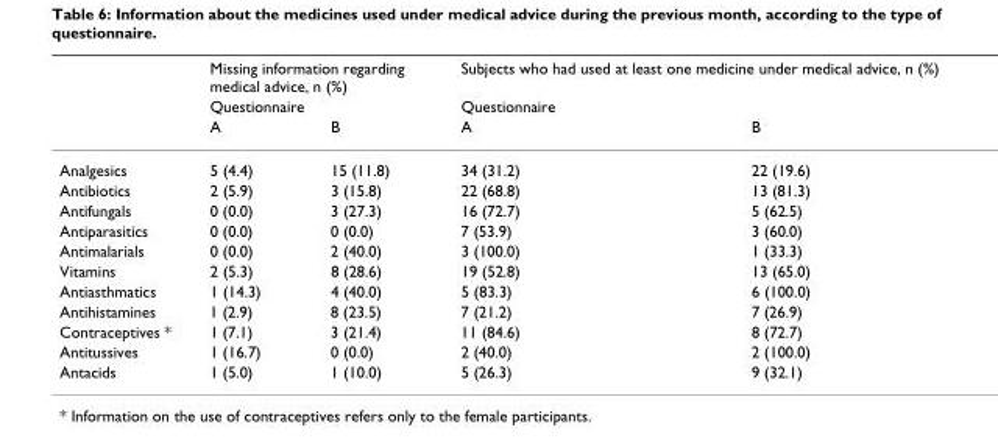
<table><thead><tr><td rowspan="3"></td><td rowspan="2" colspan="2">Missing information regarding medical advice, n (%) Questionnaire</td><td rowspan="2" colspan="2">Subjects who had used at least one medicine under medical advice, n (%) Questionnaire</td></tr><tr></tr><tr><td>A</td><td>B</td><td>A</td><td>B</td></tr></thead><tbody><tr><td>Analgesics</td><td>5 (4.4)</td><td>15 (11.8)</td><td>34 (31.2)</td><td>22 (19.6)</td></tr><tr><td>Antibiotics</td><td>2 (5.9)</td><td>3 (15.8)</td><td>22 (68.8)</td><td>13 (81.3)</td></tr><tr><td>Antifungals</td><td>0 (0.0)</td><td>3 (27.3)</td><td>16 (72.7)</td><td>5 (62.5)</td></tr><tr><td>Antiparasitics</td><td>0 (0.0)</td><td>0 (0.0)</td><td>7 (53.9)</td><td>3 (60.0)</td></tr><tr><td>Antimalarials</td><td>0 (0.0)</td><td>2 (40.0)</td><td>3 (100.0)</td><td>1 (33.3)</td></tr><tr><td>Vitamins</td><td>2 (5.3)</td><td>8 (28.6)</td><td>19 (52.8)</td><td>13 (65.0)</td></tr><tr><td>Antiasthmatics</td><td>1 (14.3)</td><td>4 (40.0)</td><td>5 (83.3)</td><td>6 (100.0)</td></tr><tr><td>Antihistamines</td><td>1 (2.9)</td><td>8 (23.5)</td><td>7 (21.2)</td><td>7 (26.9)</td></tr><tr><td>Contraceptives *</td><td>1 (7.1)</td><td>3 (21.4)</td><td>11 (84.6)</td><td>8 (72.7)</td></tr><tr><td>Antitussives</td><td>1 (16.7)</td><td>0 (0.0)</td><td>2 (40.0)</td><td>2 (100.0)</td></tr><tr><td>Antacids</td><td>1 (5.0)</td><td>1 (10.0)</td><td>5 (26.3)</td><td>9 (32.1)</td></tr></tbody></table>